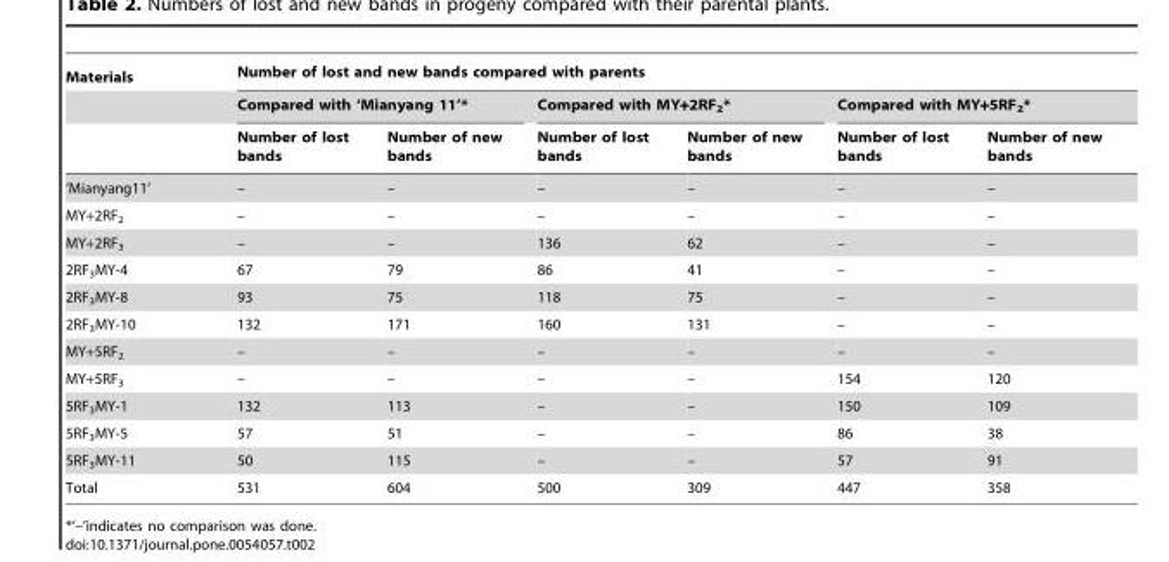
<table><thead><tr><td rowspan="3">Materials</td><td colspan="6">Number of lost and new bands compared with parents</td></tr><tr><td colspan="2">Compared with ‘Mianyang 11’*</td><td colspan="2">Compared with MY+2RF<sub>2</sub>*</td><td colspan="2">Compared with MY+5RF<sub>2</sub>*</td></tr><tr><td>Number of lost bands</td><td>Number of new bands</td><td>Number of lost bands</td><td>Number of new bands</td><td>Number of lost bands</td><td>Number of new bands</td></tr></thead><tbody><tr><td>‘Mianyang11’</td><td>–</td><td>–</td><td>–</td><td>–</td><td>–</td><td>–</td></tr><tr><td>MY+2RF<sub>2</sub></td><td>–</td><td>–</td><td>–</td><td>–</td><td>–</td><td>–</td></tr><tr><td>MY+2RF<sub>3</sub></td><td>–</td><td>–</td><td>136</td><td>62</td><td>–</td><td>–</td></tr><tr><td>2RF<sub>3</sub>MY-4</td><td>67</td><td>79</td><td>86</td><td>41</td><td>–</td><td>–</td></tr><tr><td>2RF<sub>3</sub>MY-8</td><td>93</td><td>75</td><td>118</td><td>75</td><td>–</td><td>–</td></tr><tr><td>2RF<sub>3</sub>MY-10</td><td>132</td><td>171</td><td>160</td><td>131</td><td>–</td><td>–</td></tr><tr><td>MY+5RF<sub>2</sub></td><td>–</td><td>–</td><td>–</td><td>–</td><td>–</td><td>–</td></tr><tr><td>MY+5RF<sub>3</sub></td><td>–</td><td>–</td><td>–</td><td>–</td><td>154</td><td>120</td></tr><tr><td>5RF<sub>3</sub>MY-1</td><td>132</td><td>113</td><td>–</td><td>–</td><td>150</td><td>109</td></tr><tr><td>5RF<sub>3</sub>MY-5</td><td>57</td><td>51</td><td>–</td><td>–</td><td>86</td><td>38</td></tr><tr><td>5RF<sub>3</sub>MY-11</td><td>50</td><td>115</td><td>–</td><td>–</td><td>57</td><td>91</td></tr><tr><td>Total</td><td>531</td><td>604</td><td>500</td><td>309</td><td>447</td><td>358</td></tr></tbody></table>